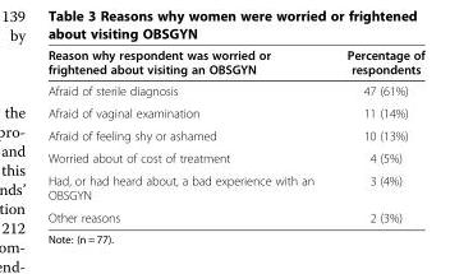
<table><thead><tr><td>Reason why respondent was worried or frightened about visiting an OBSGYN</td><td>Percentage of respondents</td></tr></thead><tbody><tr><td>Afraid of sterile diagnosis</td><td>47 (61%)</td></tr><tr><td>Afraid of vaginal examination</td><td>11 (14%)</td></tr><tr><td>Afraid of feeling shy or ashamed</td><td>10 (13%)</td></tr><tr><td>Worried about of cost of treatment</td><td>4 (5%)</td></tr><tr><td>Had, or had heard about, a bad experience with an OBSGYN</td><td>3 (4%)</td></tr><tr><td>Other reasons</td><td>2 (3%)</td></tr></tbody></table>